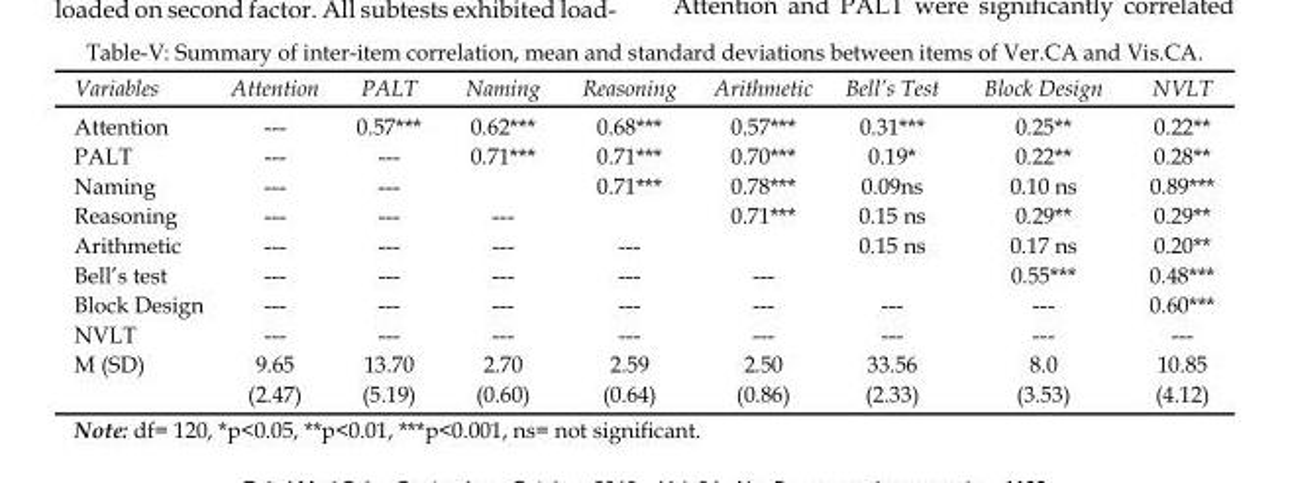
<table><thead><tr><td>Variables</td><td>Attention</td><td>PALT</td><td>Naming</td><td>Reasoning</td><td>Arithmetic</td><td>Bell’s Test</td><td>Block Design</td><td>NVLT</td></tr></thead><tbody><tr><td>Attention</td><td>---</td><td>0.57***</td><td>0.62***</td><td>0.68***</td><td>0.57***</td><td>0.31***</td><td>0.25**</td><td>0.22**</td></tr><tr><td>PALT</td><td>---</td><td>---</td><td>0.71***</td><td>0.71***</td><td>0.70***</td><td>0.19*</td><td>0.22**</td><td>0.28**</td></tr><tr><td>Naming</td><td>---</td><td>---</td><td></td><td>0.71***</td><td>0.78***</td><td>0.09<sup>ns</sup></td><td>0.10 <sup>ns</sup></td><td>0.89***</td></tr><tr><td>Reasoning</td><td>---</td><td>---</td><td>---</td><td></td><td>0.71***</td><td>0.15 <sup>ns</sup></td><td>0.29**</td><td>0.29**</td></tr><tr><td>Arithmetic</td><td>---</td><td>---</td><td>---</td><td>---</td><td></td><td>0.15 <sup>ns</sup></td><td>0.17 <sup>ns</sup></td><td>0.20**</td></tr><tr><td>Bell’s test</td><td>---</td><td>---</td><td>---</td><td>---</td><td>---</td><td></td><td>0.55***</td><td>0.48***</td></tr><tr><td>Block Design</td><td>---</td><td>---</td><td>---</td><td>---</td><td>---</td><td>---</td><td>---</td><td>0.60***</td></tr><tr><td>NVLT</td><td>---</td><td>---</td><td>---</td><td>---</td><td>---</td><td>---</td><td>---</td><td>---</td></tr><tr><td>M (SD)</td><td>9.65 (2.47)</td><td>13.70 (5.19)</td><td>2.70 (0.60)</td><td>2.59 (0.64)</td><td>2.50 (0.86)</td><td>33.56 (2.33)</td><td>8.0 (3.53)</td><td>10.85 (4.12)</td></tr></tbody></table>